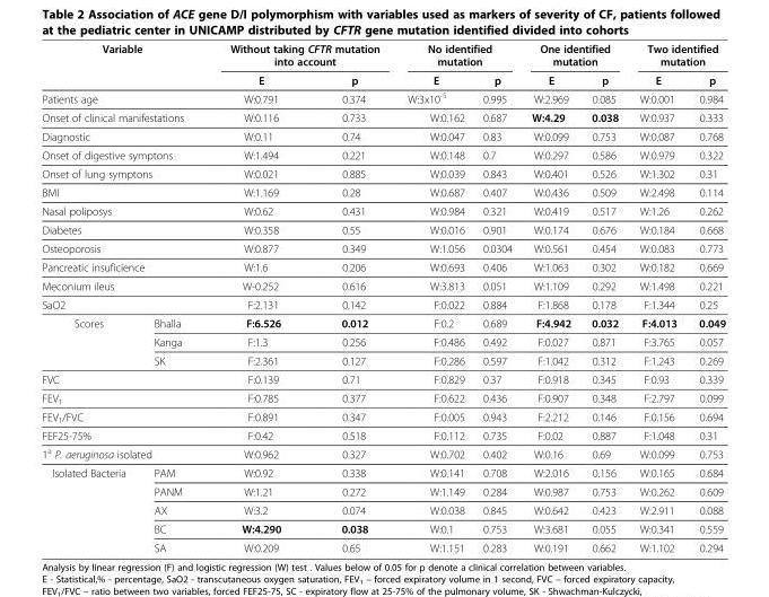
<table><thead><tr><td rowspan="2" colspan="2">Variable</td><td colspan="2">Without taking CFTR mutation into account</td><td colspan="2">No identified mutation</td><td colspan="2">One identified mutation</td><td colspan="2">Two identified mutation</td></tr><tr><td>E</td><td>p</td><td>E</td><td>p</td><td>E</td><td>p</td><td>E</td><td>p</td></tr></thead><tbody><tr><td colspan="2">Patients age</td><td>W:0.791</td><td>0.374</td><td>W:3x10<sup>-5</sup></td><td>0.995</td><td>W:2.969</td><td>0.085</td><td>W:0.001</td><td>0.984</td></tr><tr><td colspan="2">Onset of clinical manifestations</td><td>W:0.116</td><td>0.733</td><td>W:0.162</td><td>0.687</td><td>W:4.29</td><td>0.038</td><td>W:0.937</td><td>0.333</td></tr><tr><td colspan="2">Diagnostic</td><td>W:0.11</td><td>0.74</td><td>W:0.047</td><td>0.83</td><td>W:0.099</td><td>0.753</td><td>W:0.087</td><td>0.768</td></tr><tr><td colspan="2">Onset of digestive symptons</td><td>W:1.494</td><td>0.221</td><td>W:0.148</td><td>0.7</td><td>W:0.297</td><td>0.586</td><td>W:0.979</td><td>0.322</td></tr><tr><td colspan="2">Onset of lung symptons</td><td>W:0.021</td><td>0.885</td><td>W:0.039</td><td>0.843</td><td>W:0.401</td><td>0.526</td><td>W:1.302</td><td>0.31</td></tr><tr><td colspan="2">BMI</td><td>W:1.169</td><td>0.28</td><td>W:0.687</td><td>0.407</td><td>W:0.436</td><td>0.509</td><td>W:2.498</td><td>0.114</td></tr><tr><td colspan="2">Nasal poliposys</td><td>W:0.62</td><td>0.431</td><td>W:0.984</td><td>0.321</td><td>W:0.419</td><td>0.517</td><td>W:1.26</td><td>0.262</td></tr><tr><td colspan="2">Diabetes</td><td>W:0.358</td><td>0.55</td><td>W:0.016</td><td>0.901</td><td>W:0.174</td><td>0.676</td><td>W:0.184</td><td>0.668</td></tr><tr><td colspan="2">Osteoporosis</td><td>W:0.877</td><td>0.349</td><td>W:1.056</td><td>0.0304</td><td>W:0.561</td><td>0.454</td><td>W:0.083</td><td>0.773</td></tr><tr><td colspan="2">Pancreatic insuficience</td><td>W:1.6</td><td>0.206</td><td>W:0.693</td><td>0.406</td><td>W:1.063</td><td>0.302</td><td>W:0.182</td><td>0.669</td></tr><tr><td colspan="2">Meconium ileus</td><td>W-0.252</td><td>0.616</td><td>W:3.813</td><td>0.051</td><td>W:1.109</td><td>0.292</td><td>W:1.498</td><td>0.221</td></tr><tr><td colspan="2">SaO2</td><td>F:2.131</td><td>0.142</td><td>F:0.022</td><td>0.884</td><td>F:1.868</td><td>0.178</td><td>F:1.344</td><td>0.25</td></tr><tr><td rowspan="3">Scores</td><td>Bhalla</td><td>F:6.526</td><td>0.012</td><td>F:0.2</td><td>0.689</td><td>F:4.942</td><td>0.032</td><td>F:4.013</td><td>0.049</td></tr><tr><td>Kanga</td><td>F:1.3</td><td>0.256</td><td>F:0.486</td><td>0.492</td><td>F:0.027</td><td>0.871</td><td>F:3.765</td><td>0.057</td></tr><tr><td>SK</td><td>F:2.361</td><td>0.127</td><td>F:0.286</td><td>0.597</td><td>F:1.042</td><td>0.312</td><td>F:1.243</td><td>0.269</td></tr><tr><td colspan="2">FVC</td><td>F:0.139</td><td>0.71</td><td>F:0.829</td><td>0.37</td><td>F:0.918</td><td>0.345</td><td>F:0.93</td><td>0.339</td></tr><tr><td colspan="2">FEV<sub>1</sub></td><td>F:0.785</td><td>0.377</td><td>F:0.622</td><td>0.436</td><td>F:0.907</td><td>0.348</td><td>F:2.797</td><td>0.099</td></tr><tr><td colspan="2">FEV<sub>1</sub>/FVC</td><td>F:0.891</td><td>0.347</td><td>F:0.005</td><td>0.943</td><td>F:2.212</td><td>0.146</td><td>F:0.156</td><td>0.694</td></tr><tr><td colspan="2">FEF25-75%</td><td>F:0.42</td><td>0.518</td><td>F:0.112</td><td>0.735</td><td>F:0.02</td><td>0.887</td><td>F:1.048</td><td>0.31</td></tr><tr><td colspan="2">1<sup>a</sup> P. aeruginosa isolated</td><td>W:0.962</td><td>0.327</td><td>W:0.702</td><td>0.402</td><td>W:0.16</td><td>0.69</td><td>W:0.099</td><td>0.753</td></tr><tr><td rowspan="5">Isolated Bacteria</td><td>PAM</td><td>W:0.92</td><td>0.338</td><td>W:0.141</td><td>0.708</td><td>W:2.016</td><td>0.156</td><td>W:0.165</td><td>0.684</td></tr><tr><td>PANM</td><td>W:1.21</td><td>0.272</td><td>W:1.149</td><td>0.284</td><td>W:0.987</td><td>0.753</td><td>W:0.262</td><td>0.609</td></tr><tr><td>AX</td><td>W:3.2</td><td>0.074</td><td>W:0.038</td><td>0.845</td><td>W:0.642</td><td>0.423</td><td>W:2.911</td><td>0.088</td></tr><tr><td>BC</td><td>W:4.290</td><td>0.038</td><td>W:0.1</td><td>0.753</td><td>W:3.681</td><td>0.055</td><td>W:0.341</td><td>0.559</td></tr><tr><td>SA</td><td>W:0.209</td><td>0.65</td><td>W:1.151</td><td>0.283</td><td>W:0.191</td><td>0.662</td><td>W:1.102</td><td>0.294</td></tr></tbody></table>